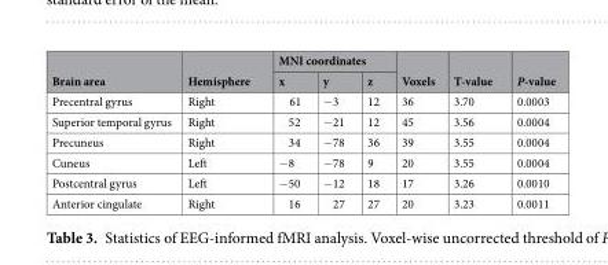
<table><thead><tr><td rowspan="2">Brain area</td><td rowspan="2">Hemisphere</td><td colspan="3">MNI coordinates</td><td rowspan="2">Voxels</td><td rowspan="2">T-value</td><td rowspan="2">P-value</td></tr><tr><td>x</td><td>y</td><td>z</td></tr></thead><tbody><tr><td>Precentral gyrus</td><td>Right</td><td>61</td><td>−3</td><td>12</td><td>36</td><td>3.70</td><td>0.0003</td></tr><tr><td>Superior temporal gyrus</td><td>Right</td><td>52</td><td>−21</td><td>12</td><td>45</td><td>3.56</td><td>0.0004</td></tr><tr><td>Precuneus</td><td>Right</td><td>34</td><td>−78</td><td>36</td><td>39</td><td>3.55</td><td>0.0004</td></tr><tr><td>Cuneus</td><td>Left</td><td>−8</td><td>−78</td><td>9</td><td>20</td><td>3.55</td><td>0.0004</td></tr><tr><td>Postcentral gyrus</td><td>Left</td><td>−50</td><td>−12</td><td>18</td><td>17</td><td>3.26</td><td>0.0010</td></tr><tr><td>Anterior cingulate</td><td>Right</td><td>16</td><td>27</td><td>27</td><td>20</td><td>3.23</td><td>0.0011</td></tr></tbody></table>